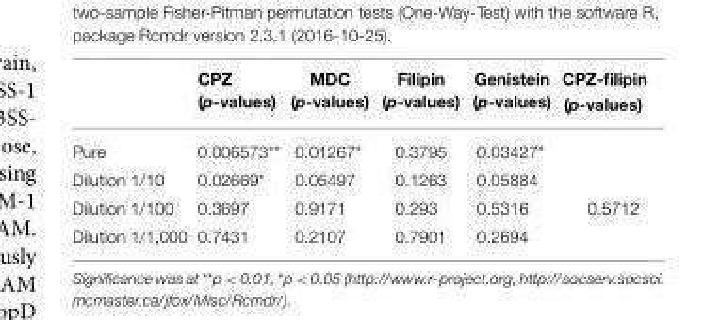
<table><thead><tr><td></td><td>CPZ (p-values)</td><td>MDC (p-values)</td><td>Filipin (p-values)</td><td>Genistein (p-values)</td><td>CPZ-filipin (p-values)</td></tr></thead><tbody><tr><td>Pure</td><td>0.006573**</td><td>0.01267*</td><td>0.3795</td><td>0.03427*</td><td></td></tr><tr><td>Dilution 1/10</td><td>0.02669*</td><td>0.05497</td><td>0.1263</td><td>0.05884</td><td></td></tr><tr><td>Dilution 1/100</td><td>0.3697</td><td>0.9171</td><td>0.293</td><td>0.5316</td><td>0.5712</td></tr><tr><td>Dilution 1/1,000</td><td>0.7431</td><td>0.2107</td><td>0.7901</td><td>0.2694</td><td></td></tr></tbody></table>